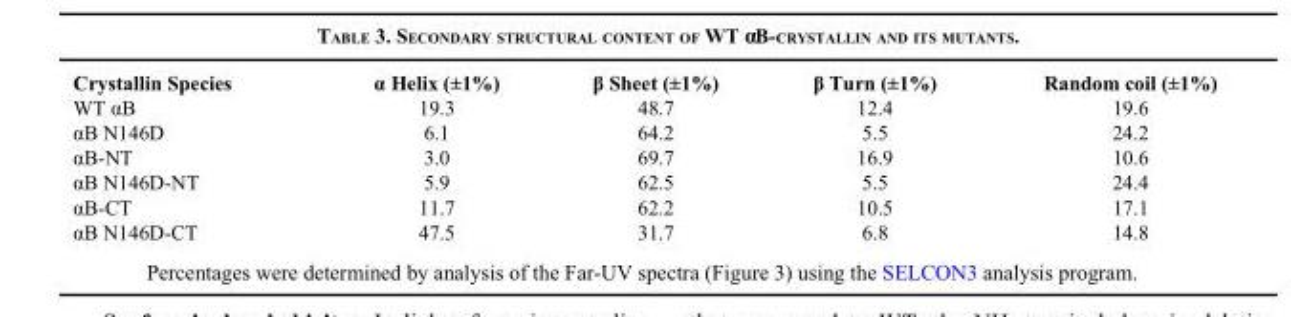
<table><thead><tr><td>Crystallin Species</td><td>α Helix (±1%)</td><td>β Sheet (±1%)</td><td>β Turn (±1%)</td><td>Random coil (±1%)</td></tr></thead><tbody><tr><td>WT αB</td><td>19.3</td><td>48.7</td><td>12.4</td><td>19.6</td></tr><tr><td>αB N146D</td><td>6.1</td><td>64.2</td><td>5.5</td><td>24.2</td></tr><tr><td>αB-NT</td><td>3.0</td><td>69.7</td><td>16.9</td><td>10.6</td></tr><tr><td>αB N146D-NT</td><td>5.9</td><td>62.5</td><td>5.5</td><td>24.4</td></tr><tr><td>αB-CT</td><td>11.7</td><td>62.2</td><td>10.5</td><td>17.1</td></tr><tr><td>αB N146D-CT</td><td>47.5</td><td>31.7</td><td>6.8</td><td>14.8</td></tr></tbody></table>